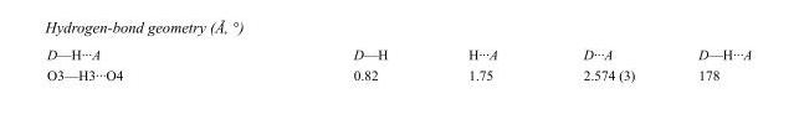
<table><tbody><tr><td>D—H···A</td><td>D—H</td><td>H···A</td><td>D···A</td><td>D—H···A</td></tr><tr><td>O3—H3···O4</td><td>0.82</td><td>1.75</td><td>2.574 (3)</td><td>178</td></tr></tbody></table>